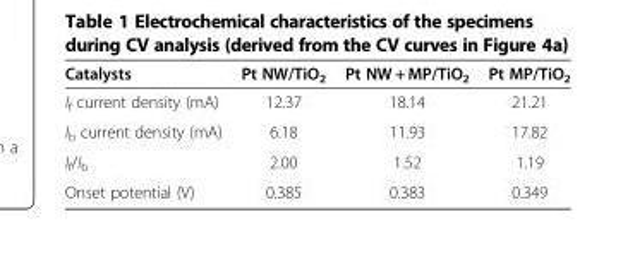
<table><thead><tr><td>Catalysts</td><td>Pt NW/TiO<sub>2</sub></td><td>Pt NW + MP/TiO<sub>2</sub></td><td>Pt MP/TiO<sub>2</sub></td></tr></thead><tbody><tr><td>I<sub>f</sub> current density (mA)</td><td>12.37</td><td>18.14</td><td>21.21</td></tr><tr><td>I<sub>b</sub> current density (mA)</td><td>6.18</td><td>11.93</td><td>17.82</td></tr><tr><td>I<sub>f</sub>/I<sub>b</sub></td><td>2.00</td><td>1.52</td><td>1.19</td></tr><tr><td>Onset potential (V)</td><td>0.385</td><td>0.383</td><td>0.349</td></tr></tbody></table>